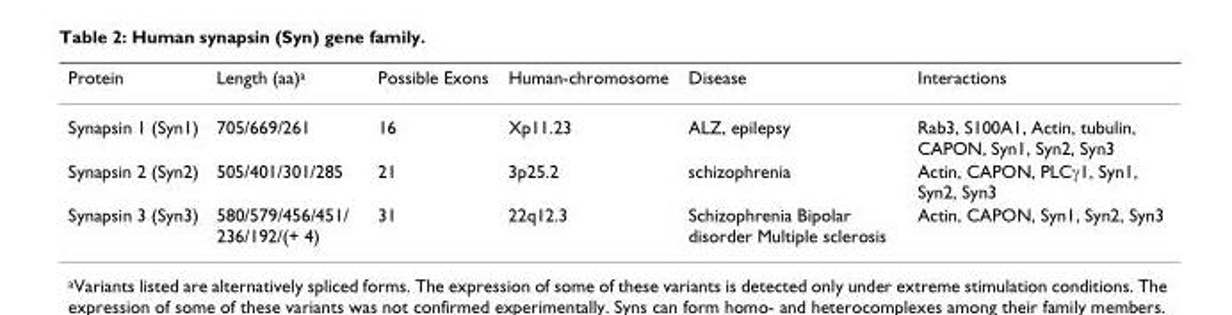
<table><thead><tr><td>Protein</td><td>Length (aa)a</td><td>Possible Exons</td><td>Human-chromosome</td><td>Disease</td><td>Interactions</td></tr></thead><tbody><tr><td>Synapsin 1 (Syn1)</td><td>705/669/261</td><td>16</td><td>Xp11.23</td><td>ALZ, epilepsy</td><td>Rab3, S100A1, Actin, tubulin, CAPON, Syn1, Syn2, Syn3</td></tr><tr><td>Synapsin 2 (Syn2)</td><td>505/401/301/285</td><td>21</td><td>3p25.2</td><td>schizophrenia</td><td>Actin, CAPON, PLCγ1, Syn1, Syn2, Syn3</td></tr><tr><td>Synapsin 3 (Syn3)</td><td>580/579/456/451/ 236/192/(+ 4)</td><td>31</td><td>22q12.3</td><td>Schizophrenia Bipolar disorder Multiple sclerosis</td><td>Actin, CAPON, Syn1, Syn2, Syn3</td></tr></tbody></table>